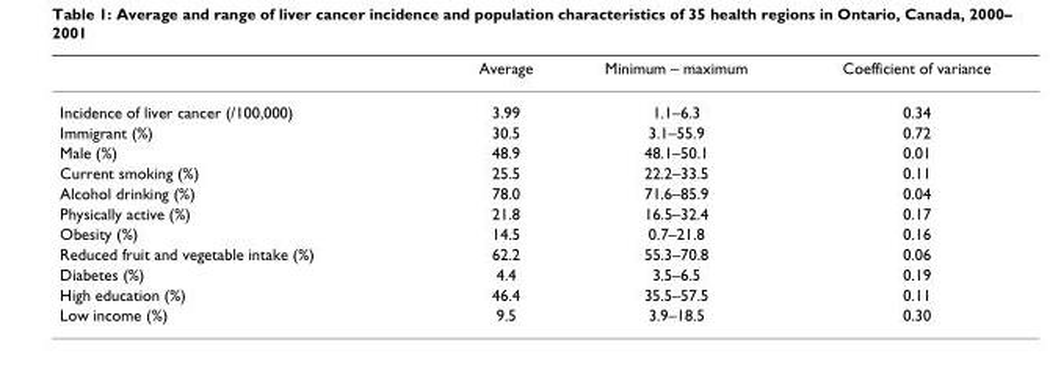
<table><thead><tr><td></td><td>Average</td><td>Minimum – maximum</td><td>Coefficient of variance</td></tr></thead><tbody><tr><td>Incidence of liver cancer (/100,000)</td><td>3.99</td><td>1.1–6.3</td><td>0.34</td></tr><tr><td>Immigrant (%)</td><td>30.5</td><td>3.1–55.9</td><td>0.72</td></tr><tr><td>Male (%)</td><td>48.9</td><td>48.1–50.1</td><td>0.01</td></tr><tr><td>Current smoking (%)</td><td>25.5</td><td>22.2–33.5</td><td>0.11</td></tr><tr><td>Alcohol drinking (%)</td><td>78.0</td><td>71.6–85.9</td><td>0.04</td></tr><tr><td>Physically active (%)</td><td>21.8</td><td>16.5–32.4</td><td>0.17</td></tr><tr><td>Obesity (%)</td><td>14.5</td><td>0.7–21.8</td><td>0.16</td></tr><tr><td>Reduced fruit and vegetable intake (%)</td><td>62.2</td><td>55.3–70.8</td><td>0.06</td></tr><tr><td>Diabetes (%)</td><td>4.4</td><td>3.5–6.5</td><td>0.19</td></tr><tr><td>High education (%)</td><td>46.4</td><td>35.5–57.5</td><td>0.11</td></tr><tr><td>Low income (%)</td><td>9.5</td><td>3.9–18.5</td><td>0.30</td></tr></tbody></table>